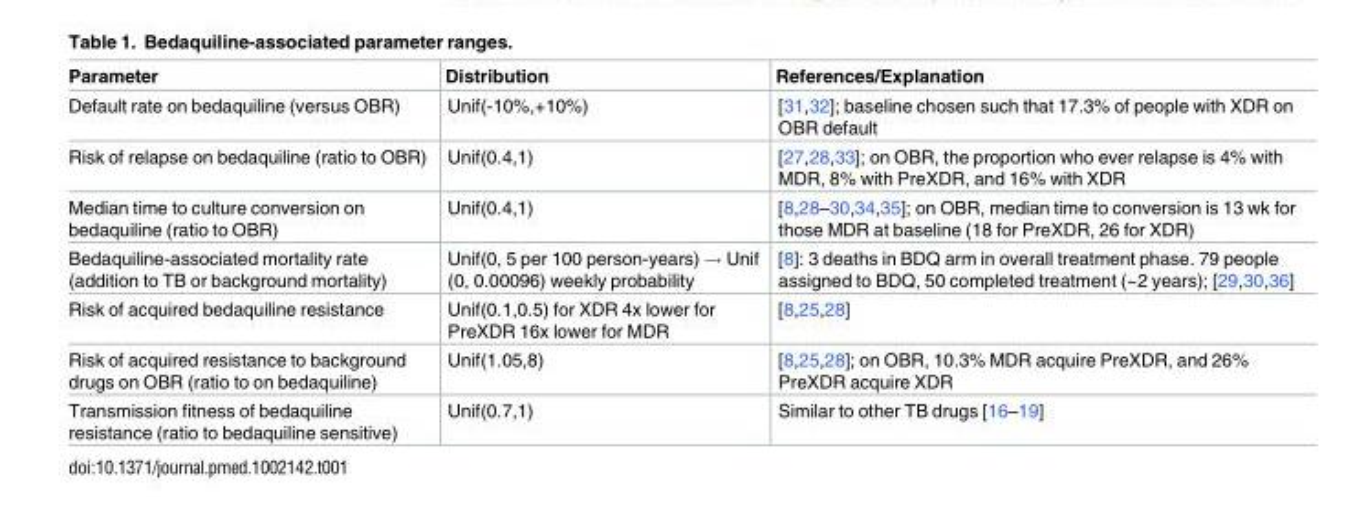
<table><thead><tr><td>Parameter</td><td>Distribution</td><td>References/Explanation</td></tr></thead><tbody><tr><td>Default rate on bedaquiline (versus OBR)</td><td>Unif(-10%,+10%)</td><td>[31,32]; baseline chosen such that 17.3% of people with XDR on OBR default</td></tr><tr><td>Risk of relapse on bedaquiline (ratio to OBR)</td><td>Unif(0.4,1)</td><td>[27,28,33]; on OBR, the proportion who ever relapse is 4% with MDR, 8% with PreXDR, and 16% with XDR</td></tr><tr><td>Median time to culture conversion on bedaquiline (ratio to OBR)</td><td>Unif(0.4,1)</td><td>[8,28–30,34,35]; on OBR, median time to conversion is 13 wk for those MDR at baseline (18 for PreXDR, 26 for XDR)</td></tr><tr><td>Bedaquiline-associated mortality rate (addition to TB or background mortality)</td><td>Unif(0, 5 per 100 person-years) → Unif (0, 0.00096) weekly probability</td><td>[8]: 3 deaths in BDQ arm in overall treatment phase. 79 people assigned to BDQ, 50 completed treatment (~2 years); [29,30,36]</td></tr><tr><td>Risk of acquired bedaquiline resistance</td><td>Unif(0.1,0.5) for XDR 4x lower for PreXDR 16x lower for MDR</td><td>[8,25,28]</td></tr><tr><td>Risk of acquired resistance to background drugs on OBR (ratio to on bedaquiline)</td><td>Unif(1.05,8)</td><td>[8,25,28]; on OBR, 10.3% MDR acquire PreXDR, and 26% PreXDR acquire XDR</td></tr><tr><td>Transmission fitness of bedaquiline resistance (ratio to bedaquiline sensitive)</td><td>Unif(0.7,1)</td><td>Similar to other TB drugs [16–19]</td></tr></tbody></table>